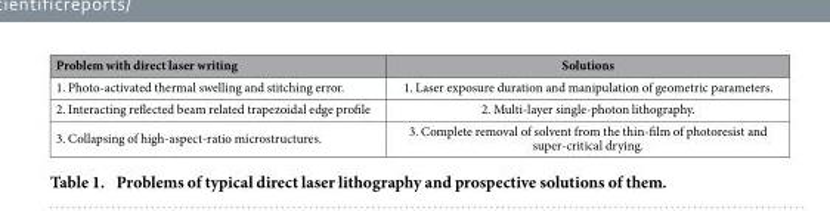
<table><thead><tr><td>Problem with direct laser writing</td><td>Solutions</td></tr></thead><tbody><tr><td>1. Photo-activated thermal swelling and stitching error.</td><td>1. Laser exposure duration and manipulation of geometric parameters.</td></tr><tr><td>2. Interacting reflected beam related trapezoidal edge profile</td><td>2. Multi-layer single-photon lithography.</td></tr><tr><td>3. Collapsing of high-aspect-ratio microstructures.</td><td>3. Complete removal of solvent from the thin-film of photoresist and super-critical drying.</td></tr></tbody></table>